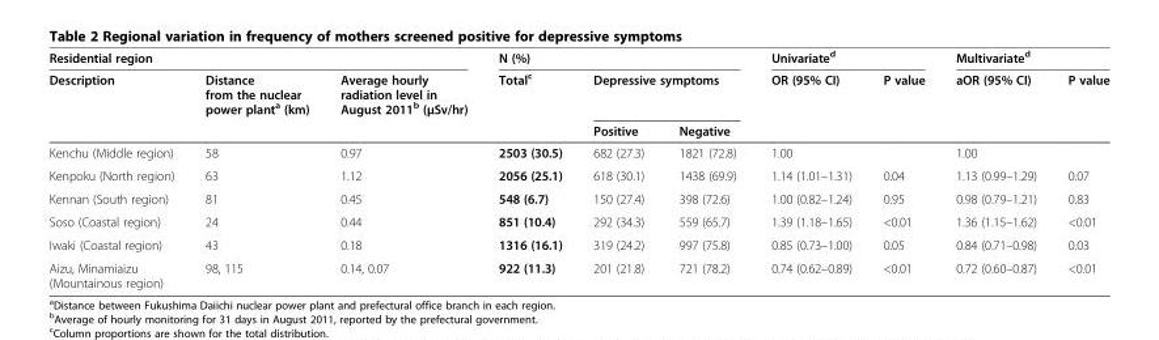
<table><thead><tr><td colspan="3">Residential region</td><td colspan="3">N (%)</td><td colspan="2">Univariate<sup>d</sup></td><td colspan="2">Multivariate<sup>d</sup></td></tr><tr><td rowspan="2">Description</td><td rowspan="2">Distance from the nuclear power plant<sup>a</sup> (km)</td><td rowspan="2">Average hourly radiation level in August 2011<sup>b</sup> (μSv/hr)</td><td rowspan="2">Total<sup>c</sup></td><td colspan="2">Depressive symptoms</td><td rowspan="2">OR (95% CI)</td><td rowspan="2">P value</td><td rowspan="2">aOR (95% CI)</td><td rowspan="2">P value</td></tr><tr><td>Positive</td><td>Negative</td></tr></thead><tbody><tr><td>Kenchu (Middle region)</td><td>58</td><td>0.97</td><td>2503 (30.5)</td><td>682 (27.3)</td><td>1821 (72.8)</td><td>1.00</td><td></td><td>1.00</td><td></td></tr><tr><td>Kenpoku (North region)</td><td>63</td><td>1.12</td><td>2056 (25.1)</td><td>618 (30.1)</td><td>1438 (69.9)</td><td>1.14 (1.01–1.31)</td><td>0.04</td><td>1.13 (0.99–1.29)</td><td>0.07</td></tr><tr><td>Kennan (South region)</td><td>81</td><td>0.45</td><td>548 (6.7)</td><td>150 (27.4)</td><td>398 (72.6)</td><td>1.00 (0.82–1.24)</td><td>0.95</td><td>0.98 (0.79–1.21)</td><td>0.83</td></tr><tr><td>Soso (Coastal region)</td><td>24</td><td>0.44</td><td>851 (10.4)</td><td>292 (34.3)</td><td>559 (65.7)</td><td>1.39 (1.18–1.65)</td><td>&lt;0.01</td><td>1.36 (1.15–1.62)</td><td>&lt;0.01</td></tr><tr><td>Iwaki (Coastal region)</td><td>43</td><td>0.18</td><td>1316 (16.1)</td><td>319 (24.2)</td><td>997 (75.8)</td><td>0.85 (0.73–1.00)</td><td>0.05</td><td>0.84 (0.71–0.98)</td><td>0.03</td></tr><tr><td>Aizu, Minamiaizu (Mountainous region)</td><td>98, 115</td><td>0.14, 0.07</td><td>922 (11.3)</td><td>201 (21.8)</td><td>721 (78.2)</td><td>0.74 (0.62–0.89)</td><td>&lt;0.01</td><td>0.72 (0.60–0.87)</td><td>&lt;0.01</td></tr></tbody></table>